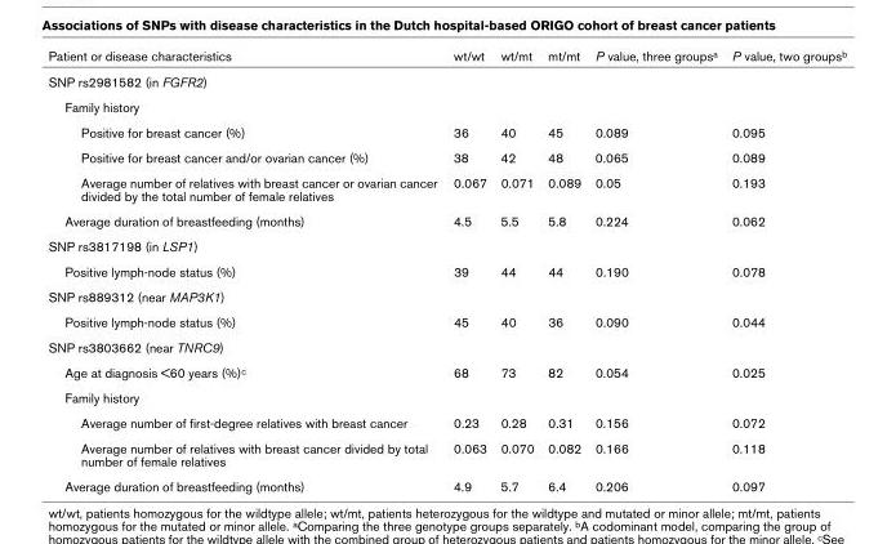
<table><thead><tr><td>Patient or disease characteristics</td><td>wt/wt</td><td>wt/mt</td><td>mt/mt</td><td>P value, three groups<sup>a</sup></td><td>P value, two groups<sup>b</sup></td></tr></thead><tbody><tr><td colspan="6">SNP rs2981582 (in FGFR2)</td></tr><tr><td colspan="6">Family history</td></tr><tr><td>Positive for breast cancer (%)</td><td>36</td><td>40</td><td>45</td><td>0.089</td><td>0.095</td></tr><tr><td>Positive for breast cancer and/or ovarian cancer (%)</td><td>38</td><td>42</td><td>48</td><td>0.065</td><td>0.089</td></tr><tr><td>Average number of relatives with breast cancer or ovarian cancer divided by the total number of female relatives</td><td>0.067</td><td>0.071</td><td>0.089</td><td>0.05</td><td>0.193</td></tr><tr><td>Average duration of breastfeeding (months)</td><td>4.5</td><td>5.5</td><td>5.8</td><td>0.224</td><td>0.062</td></tr><tr><td colspan="6">SNP rs3817198 (in LSP1)</td></tr><tr><td>Positive lymph-node status (%)</td><td>39</td><td>44</td><td>44</td><td>0.190</td><td>0.078</td></tr><tr><td colspan="6">SNP rs889312 (near MAP3K1)</td></tr><tr><td>Positive lymph-node status (%)</td><td>45</td><td>40</td><td>36</td><td>0.090</td><td>0.044</td></tr><tr><td colspan="6">SNP rs3803662 (near TNRC9)</td></tr><tr><td>Age at diagnosis &lt;60 years (%)<sup>c</sup></td><td>68</td><td>73</td><td>82</td><td>0.054</td><td>0.025</td></tr><tr><td colspan="6">Family history</td></tr><tr><td>Average number of first-degree relatives with breast cancer</td><td>0.23</td><td>0.28</td><td>0.31</td><td>0.156</td><td>0.072</td></tr><tr><td>Average number of relatives with breast cancer divided by total number of female relatives</td><td>0.063</td><td>0.070</td><td>0.082</td><td>0.166</td><td>0.118</td></tr><tr><td>Average duration of breastfeeding (months)</td><td>4.9</td><td>5.7</td><td>6.4</td><td>0.206</td><td>0.097</td></tr></tbody></table>